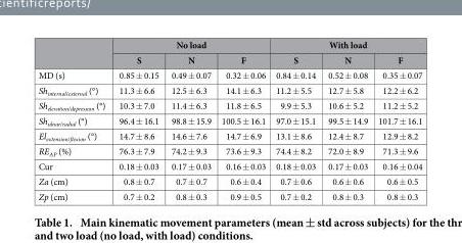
<table><thead><tr><td rowspan="2"></td><td colspan="3">No load</td><td colspan="3">With load</td></tr><tr><td>S</td><td>N</td><td>F</td><td>S</td><td>N</td><td>F</td></tr></thead><tbody><tr><td>MD (s)</td><td>0.85 ± 0.15</td><td>0.49 ± 0.07</td><td>0.32 ± 0.06</td><td>0.84 ± 0.14</td><td>0.52 ± 0.08</td><td>0.35 ± 0.07</td></tr><tr><td>Sh<sub>internal/external</sub> (°)</td><td>11.3 ± 6.6</td><td>12.5 ± 6.3</td><td>14.1 ± 6.3</td><td>11.2 ± 5.5</td><td>12.7 ± 5.8</td><td>12.2 ± 6.2</td></tr><tr><td>Sh<sub>elevation/depression</sub> (°)</td><td>10.3 ± 7.0</td><td>11.4 ± 6.3</td><td>11.8 ± 6.5</td><td>9.9 ± 5.3</td><td>10.6 ± 5.2</td><td>11.2 ± 5.2</td></tr><tr><td>Sh<sub>ulnar/radial</sub> (°)</td><td>96.4 ± 16.1</td><td>98.8 ± 15.9</td><td>100.5 ± 16.1</td><td>97.0 ± 15.1</td><td>99.5 ± 14.9</td><td>101.7 ± 16.1</td></tr><tr><td>El<sub>extension/flexion</sub> (°)</td><td>14.7 ± 8.6</td><td>14.6 ± 7.6</td><td>14.7 ± 6.9</td><td>13.1 ± 8.6</td><td>12.4 ± 8.7</td><td>12.9 ± 8.2</td></tr><tr><td>RE<sub>AP</sub> (%)</td><td>76.3 ± 7.9</td><td>74.2 ± 9.3</td><td>73.6 ± 9.3</td><td>74.4 ± 8.2</td><td>72.0 ± 8.9</td><td>71.3 ± 9.6</td></tr><tr><td>Cur</td><td>0.18 ± 0.03</td><td>0.17 ± 0.03</td><td>0.16 ± 0.03</td><td>0.18 ± 0.03</td><td>0.17 ± 0.03</td><td>0.16 ± 0.04</td></tr><tr><td>Za (cm)</td><td>0.8 ± 0.7</td><td>0.7 ± 0.7</td><td>0.6 ± 0.4</td><td>0.7 ± 0.6</td><td>0.6 ± 0.6</td><td>0.6 ± 0.5</td></tr><tr><td>Zp (cm)</td><td>0.7 ± 0.2</td><td>0.8 ± 0.3</td><td>0.9 ± 0.5</td><td>0.7 ± 0.2</td><td>0.8 ± 0.3</td><td>0.8 ± 0.3</td></tr></tbody></table>